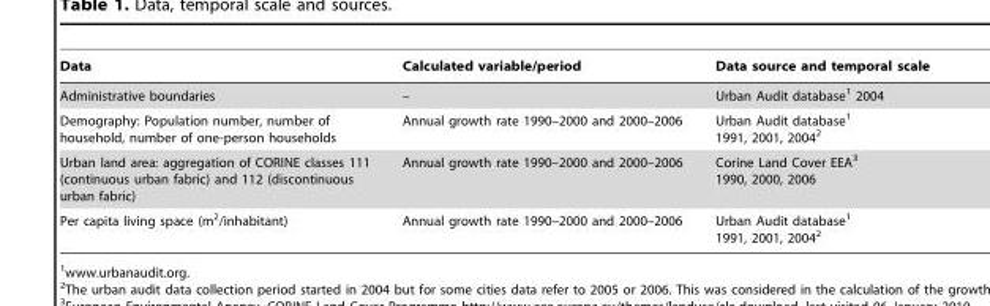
<table><thead><tr><td>Data</td><td>Calculated variable/period</td><td>Data source and temporal scale</td></tr></thead><tbody><tr><td>Administrative boundaries</td><td>–</td><td>Urban Audit database<sup>1</sup> 2004</td></tr><tr><td>Demography: Population number, number of household, number of one-person households</td><td>Annual growth rate 1990–2000 and 2000–2006</td><td>Urban Audit database<sup>1</sup> 1991, 2001, 2004<sup>2</sup></td></tr><tr><td>Urban land area: aggregation of CORINE classes 111 (continuous urban fabric) and 112 (discontinuous urban fabric)</td><td>Annual growth rate 1990–2000 and 2000–2006</td><td>Corine Land Cover EEA<sup>3</sup> 1990, 2000, 2006</td></tr><tr><td>Per capita living space (m<sup>2</sup>/inhabitant)</td><td>Annual growth rate 1990–2000 and 2000–2006</td><td>Urban Audit database<sup>1</sup> 1991, 2001, 2004<sup>2</sup></td></tr></tbody></table>